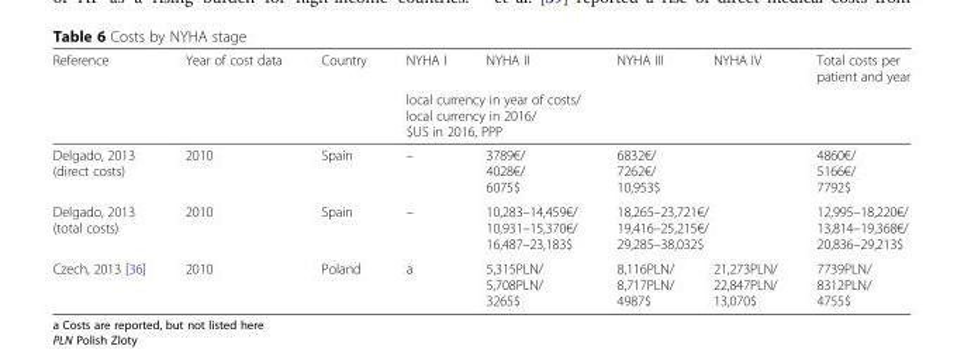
<table><thead><tr><td rowspan="2">Reference</td><td rowspan="2">Year of cost data</td><td rowspan="2">Country</td><td>NYHA I</td><td>NYHA II</td><td>NYHA III</td><td>NYHA IV</td><td>Total costs per patient and year</td></tr><tr><td colspan="5">local currency in year of costs/ local currency in 2016/ $US in 2016, PPP</td></tr></thead><tbody><tr><td>Delgado, 2013 (direct costs)</td><td>2010</td><td>Spain</td><td>–</td><td>3789€/ 4028€/ 6075$</td><td colspan="2">6832€/ 7262€/ 10,953$</td><td>4860€/ 5166€/ 7792$</td></tr><tr><td>Delgado, 2013 (total costs)</td><td>2010</td><td>Spain</td><td>–</td><td>10,283–14,459€/ 10,931–15,370€/ 16,487–23,183$</td><td colspan="2">18,265–23,721€/ 19,416–25,215€/ 29,285–38,032$</td><td>12,995–18,220€/ 13,814–19,368€/ 20,836–29,213$</td></tr><tr><td>Czech, 2013 [36]</td><td>2010</td><td>Poland</td><td>a</td><td>5,315PLN/ 5,708PLN/ 3265$</td><td>8,116PLN/ 8,717PLN/ 4987$</td><td>21,273PLN/ 22,847PLN/ 13,070$</td><td>7739PLN/ 8312PLN/ 4755$</td></tr></tbody></table>